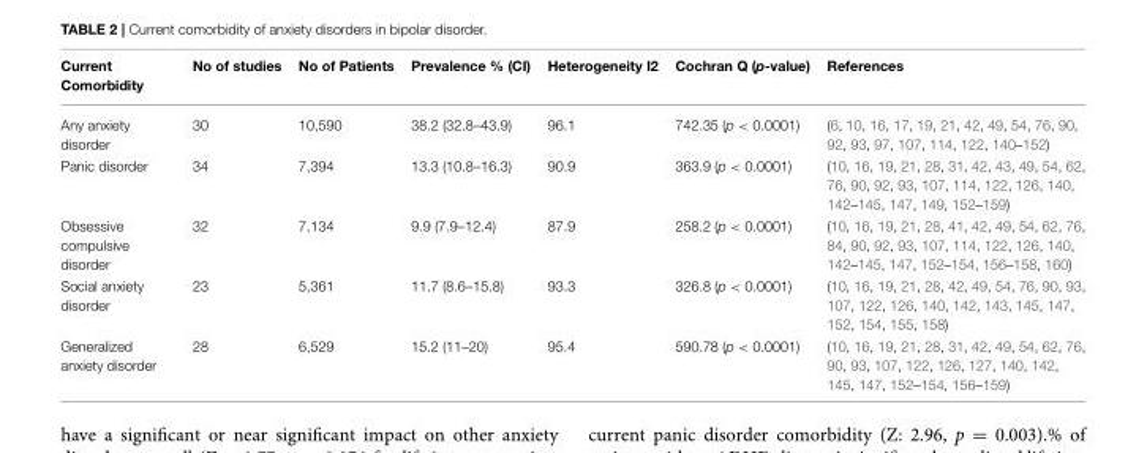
<table><thead><tr><td>Current Comorbidity</td><td>No of studies</td><td>No of Patients</td><td>Prevalence % (CI)</td><td>Heterogeneity I2</td><td>Cochran Q (p-value)</td><td>References</td></tr></thead><tbody><tr><td>Any anxiety disorder</td><td>30</td><td>10,590</td><td>38.2 (32.8–43.9)</td><td>96.1</td><td>742.35 (p &lt; 0.0001)</td><td>(6, 10, 16, 17, 19, 21, 42, 49, 54, 76, 90, 92, 93, 97, 107, 114, 122, 140–152)</td></tr><tr><td>Panic disorder</td><td>34</td><td>7,394</td><td>13.3 (10.8–16.3)</td><td>90.9</td><td>363.9 (p &lt; 0.0001)</td><td>(10, 16, 19, 21, 28, 31, 42, 43, 49, 54, 62, 76, 90, 92, 93, 107, 114, 122, 126, 140, 142–145, 147, 149, 152–159)</td></tr><tr><td>Obsessive compulsive disorder</td><td>32</td><td>7,134</td><td>9.9 (7.9–12.4)</td><td>87.9</td><td>258.2 (p &lt; 0.0001)</td><td>(10, 16, 19, 21, 28, 41, 42, 49, 54, 62, 76, 84, 90, 92, 93, 107, 114, 122, 126, 140, 142–145, 147, 152–154, 156–158, 160)</td></tr><tr><td>Social anxiety disorder</td><td>23</td><td>5,361</td><td>11.7 (8.6–15.8)</td><td>93.3</td><td>326.8 (p &lt; 0.0001)</td><td>(10, 16, 19, 21, 28, 42, 49, 54, 76, 90, 93, 107, 122, 126, 140, 142, 143, 145, 147, 152, 154, 155, 158)</td></tr><tr><td>Generalized anxiety disorder</td><td>28</td><td>6,529</td><td>15.2 (11–20)</td><td>95.4</td><td>590.78 (p &lt; 0.0001)</td><td>(10, 16, 19, 21, 28, 31, 42, 49, 54, 62, 76, 90, 93, 107, 122, 126, 127, 140, 142, 145, 147, 152–154, 156–159)</td></tr></tbody></table>